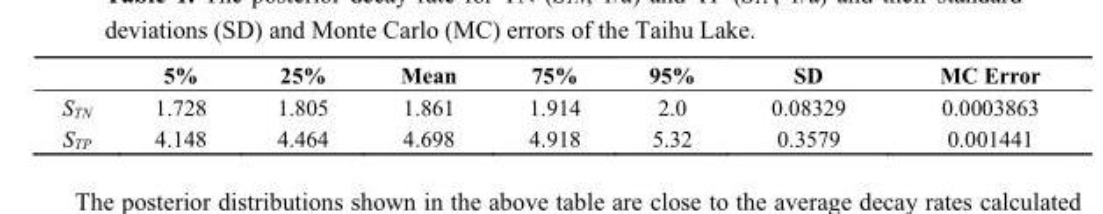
<table><thead><tr><td></td><td>5%</td><td>25%</td><td>Mean</td><td>75%</td><td>95%</td><td>SD</td><td>MC Error</td></tr></thead><tbody><tr><td>S<sub>TN</sub></td><td>1.728</td><td>1.805</td><td>1.861</td><td>1.914</td><td>2.0</td><td>0.08329</td><td>0.0003863</td></tr><tr><td>S<sub>TP</sub></td><td>4.148</td><td>4.464</td><td>4.698</td><td>4.918</td><td>5.32</td><td>0.3579</td><td>0.001441</td></tr></tbody></table>